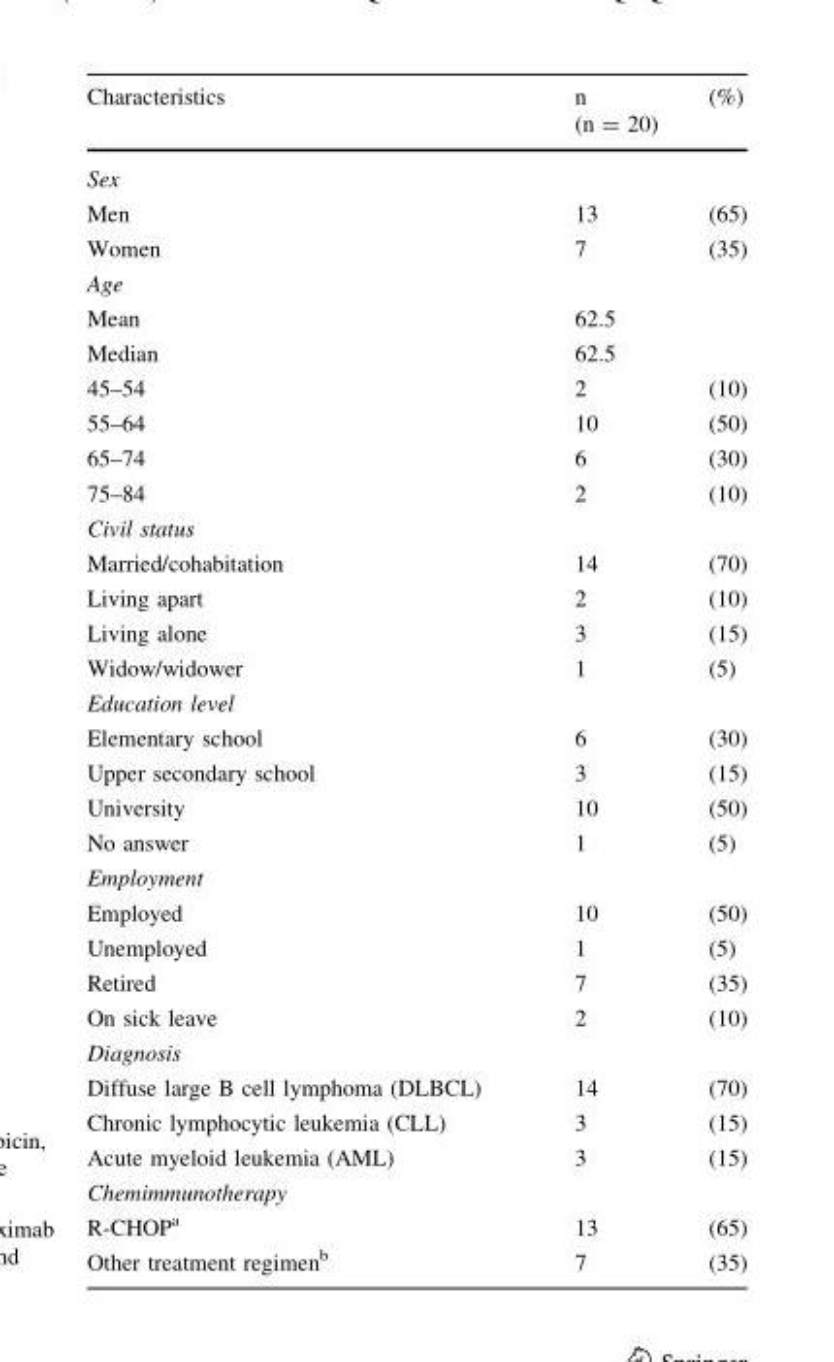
<table><thead><tr><td rowspan="2">Characteristics</td><td>n</td><td>(%)</td></tr><tr><td colspan="2">(n = 20)</td></tr></thead><tbody><tr><td colspan="3">Sex</td></tr><tr><td>Men</td><td>13</td><td>(65)</td></tr><tr><td>Women</td><td>7</td><td>(35)</td></tr><tr><td colspan="3">Age</td></tr><tr><td>Mean</td><td>62.5</td><td></td></tr><tr><td>Median</td><td>62.5</td><td></td></tr><tr><td>45–54</td><td>2</td><td>(10)</td></tr><tr><td>55–64</td><td>10</td><td>(50)</td></tr><tr><td>65–74</td><td>6</td><td>(30)</td></tr><tr><td>75–84</td><td>2</td><td>(10)</td></tr><tr><td colspan="3">Civil status</td></tr><tr><td>Married/cohabitation</td><td>14</td><td>(70)</td></tr><tr><td>Living apart</td><td>2</td><td>(10)</td></tr><tr><td>Living alone</td><td>3</td><td>(15)</td></tr><tr><td>Widow/widower</td><td>1</td><td>(5)</td></tr><tr><td colspan="3">Education level</td></tr><tr><td>Elementary school</td><td>6</td><td>(30)</td></tr><tr><td>Upper secondary school</td><td>3</td><td>(15)</td></tr><tr><td>University</td><td>10</td><td>(50)</td></tr><tr><td>No answer</td><td>1</td><td>(5)</td></tr><tr><td colspan="3">Employment</td></tr><tr><td>Employed</td><td>10</td><td>(50)</td></tr><tr><td>Unemployed</td><td>1</td><td>(5)</td></tr><tr><td>Retired</td><td>7</td><td>(35)</td></tr><tr><td>On sick leave</td><td>2</td><td>(10)</td></tr><tr><td colspan="3">Diagnosis</td></tr><tr><td>Diffuse large B cell lymphoma (DLBCL)</td><td>14</td><td>(70)</td></tr><tr><td>Chronic lymphocytic leukemia (CLL)</td><td>3</td><td>(15)</td></tr><tr><td>Acute myeloid leukemia (AML)</td><td>3</td><td>(15)</td></tr><tr><td colspan="3">Chemimmunotherapy</td></tr><tr><td>R-CHOP<sup>a</sup></td><td>13</td><td>(65)</td></tr><tr><td>Other treatment regimen<sup>b</sup></td><td>7</td><td>(35)</td></tr></tbody></table>